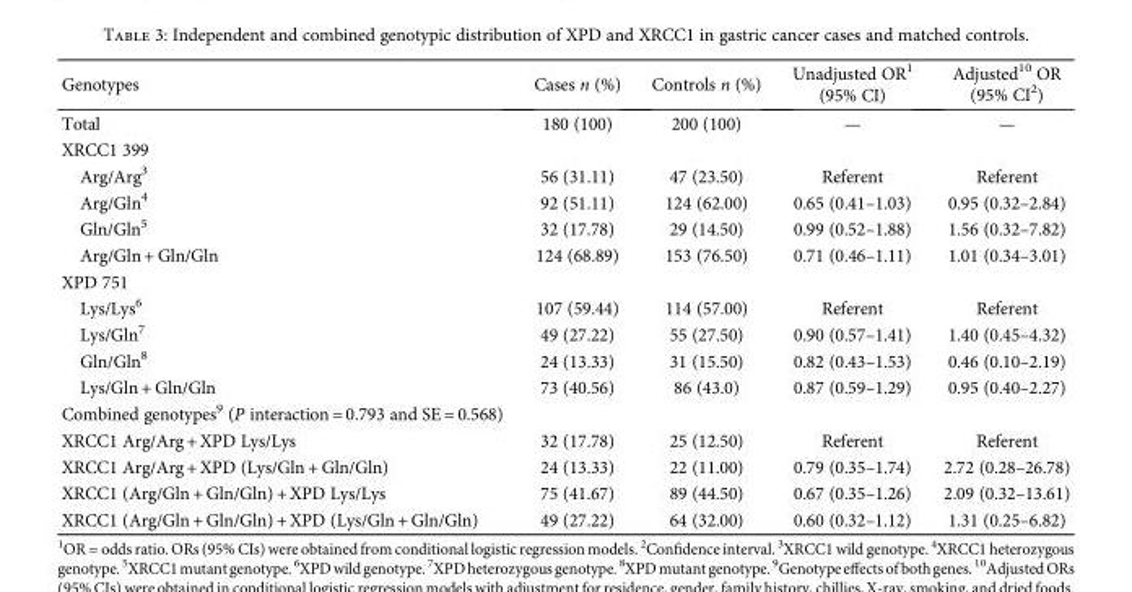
<table><thead><tr><td>Genotypes</td><td>Cases n (%)</td><td>Controls n (%)</td><td>Unadjusted OR<sup>1</sup> (95% CI)</td><td>Adjusted<sup>10</sup> OR (95% CI<sup>2</sup>)</td></tr></thead><tbody><tr><td>Total</td><td>180 (100)</td><td>200 (100)</td><td>—</td><td>—</td></tr><tr><td colspan="5">XRCC1 399</td></tr><tr><td>Arg/Arg<sup>3</sup></td><td>56 (31.11)</td><td>47 (23.50)</td><td>Referent</td><td>Referent</td></tr><tr><td>Arg/Gln<sup>4</sup></td><td>92 (51.11)</td><td>124 (62.00)</td><td>0.65 (0.41–1.03)</td><td>0.95 (0.32–2.84)</td></tr><tr><td>Gln/Gln<sup>5</sup></td><td>32 (17.78)</td><td>29 (14.50)</td><td>0.99 (0.52–1.88)</td><td>1.56 (0.32–7.82)</td></tr><tr><td>Arg/Gln + Gln/Gln</td><td>124 (68.89)</td><td>153 (76.50)</td><td>0.71 (0.46–1.11)</td><td>1.01 (0.34–3.01)</td></tr><tr><td colspan="5">XPD 751</td></tr><tr><td>Lys/Lys<sup>6</sup></td><td>107 (59.44)</td><td>114 (57.00)</td><td>Referent</td><td>Referent</td></tr><tr><td>Lys/Gln<sup>7</sup></td><td>49 (27.22)</td><td>55 (27.50)</td><td>0.90 (0.57–1.41)</td><td>1.40 (0.45–4.32)</td></tr><tr><td>Gln/Gln<sup>8</sup></td><td>24 (13.33)</td><td>31 (15.50)</td><td>0.82 (0.43–1.53)</td><td>0.46 (0.10–2.19)</td></tr><tr><td>Lys/Gln + Gln/Gln</td><td>73 (40.56)</td><td>86 (43.0)</td><td>0.87 (0.59–1.29)</td><td>0.95 (0.40–2.27)</td></tr><tr><td colspan="5">Combined genotypes<sup>9</sup> (P interaction = 0.793 and SE = 0.568)</td></tr><tr><td>XRCC1 Arg/Arg + XPD Lys/Lys</td><td>32 (17.78)</td><td>25 (12.50)</td><td>Referent</td><td>Referent</td></tr><tr><td>XRCC1 Arg/Arg + XPD (Lys/Gln + Gln/Gln)</td><td>24 (13.33)</td><td>22 (11.00)</td><td>0.79 (0.35–1.74)</td><td>2.72 (0.28–26.78)</td></tr><tr><td>XRCC1 (Arg/Gln + Gln/Gln) + XPD Lys/Lys</td><td>75 (41.67)</td><td>89 (44.50)</td><td>0.67 (0.35–1.26)</td><td>2.09 (0.32–13.61)</td></tr><tr><td>XRCC1 (Arg/Gln + Gln/Gln) + XPD (Lys/Gln + Gln/Gln)</td><td>49 (27.22)</td><td>64 (32.00)</td><td>0.60 (0.32–1.12)</td><td>1.31 (0.25–6.82)</td></tr></tbody></table>